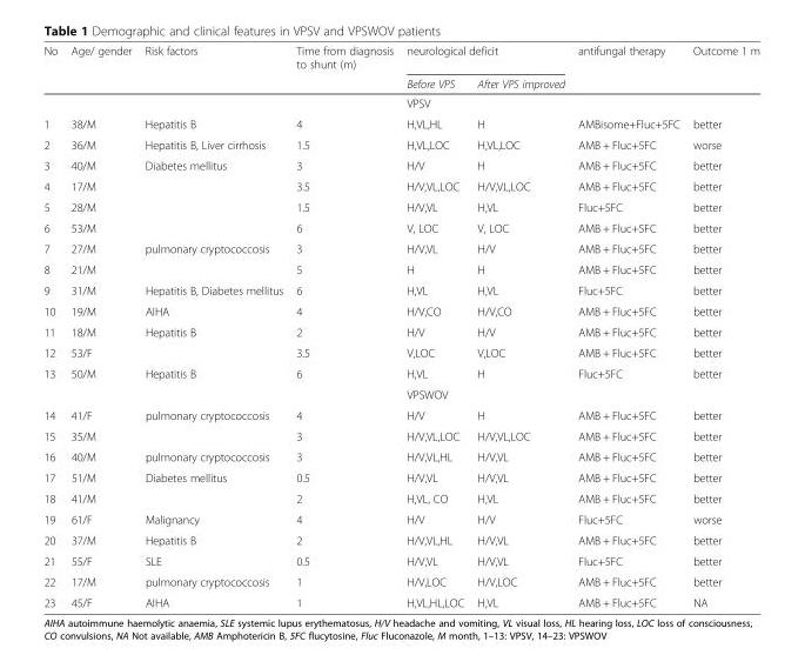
<table><thead><tr><td rowspan="2">No</td><td rowspan="2">Age/ gender</td><td rowspan="2">Risk factors</td><td rowspan="2">Time from diagnosis to shunt (m)</td><td colspan="2">neurological deficit</td><td rowspan="2">antifungal therapy</td><td rowspan="2">Outcome 1 m</td></tr><tr><td>Before VPS</td><td>After VPS improved</td></tr></thead><tbody><tr><td></td><td></td><td></td><td></td><td>VPSV</td><td></td><td></td><td></td></tr><tr><td>1</td><td>38/M</td><td>Hepatitis B</td><td>4</td><td>H,VL,HL</td><td>H</td><td>AMBisome+Fluc+5FC</td><td>better</td></tr><tr><td>2</td><td>36/M</td><td>Hepatitis B, Liver cirrhosis</td><td>1.5</td><td>H,VL,LOC</td><td>H,VL,LOC</td><td>AMB + Fluc+5FC</td><td>worse</td></tr><tr><td>3</td><td>40/M</td><td>Diabetes mellitus</td><td>3</td><td>H/V</td><td>H</td><td>AMB + Fluc+5FC</td><td>better</td></tr><tr><td>4</td><td>17/M</td><td></td><td>3.5</td><td>H/V,VL,LOC</td><td>H/V,VL,LOC</td><td>AMB + Fluc+5FC</td><td>better</td></tr><tr><td>5</td><td>28/M</td><td></td><td>1.5</td><td>H/V,VL</td><td>H,VL</td><td>Fluc+5FC</td><td>better</td></tr><tr><td>6</td><td>53/M</td><td></td><td>6</td><td>V, LOC</td><td>V, LOC</td><td>AMB + Fluc+5FC</td><td>better</td></tr><tr><td>7</td><td>27/M</td><td>pulmonary cryptococcosis</td><td>3</td><td>H/V,VL</td><td>H/V</td><td>AMB + Fluc+5FC</td><td>better</td></tr><tr><td>8</td><td>21/M</td><td></td><td>5</td><td>H</td><td>H</td><td>AMB + Fluc+5FC</td><td>better</td></tr><tr><td>9</td><td>31/M</td><td>Hepatitis B, Diabetes mellitus</td><td>6</td><td>H,VL</td><td>H,VL</td><td>Fluc+5FC</td><td>better</td></tr><tr><td>10</td><td>19/M</td><td>AIHA</td><td>4</td><td>H/V,CO</td><td>H/V,CO</td><td>AMB + Fluc+5FC</td><td>better</td></tr><tr><td>11</td><td>18/M</td><td>Hepatitis B</td><td>2</td><td>H/V</td><td>H/V</td><td>AMB + Fluc+5FC</td><td>better</td></tr><tr><td>12</td><td>53/F</td><td></td><td>3.5</td><td>V,LOC</td><td>V,LOC</td><td>AMB + Fluc+5FC</td><td>better</td></tr><tr><td rowspan="2">13</td><td>50/M</td><td>Hepatitis B</td><td>6</td><td>H,VL</td><td>H</td><td>Fluc+5FC</td><td>better</td></tr><tr><td></td><td></td><td></td><td>VPSWOV</td><td></td><td></td><td></td></tr><tr><td>14</td><td>41/F</td><td>pulmonary cryptococcosis</td><td>4</td><td>H/V</td><td>H</td><td>AMB + Fluc+5FC</td><td>better</td></tr><tr><td>15</td><td>35/M</td><td></td><td>3</td><td>H/V,VL,LOC</td><td>H/V,VL,LOC</td><td>AMB + Fluc+5FC</td><td>better</td></tr><tr><td>16</td><td>40/M</td><td>pulmonary cryptococcosis</td><td>3</td><td>H/V,VL,HL</td><td>H/V,VL</td><td>AMB + Fluc+5FC</td><td>better</td></tr><tr><td>17</td><td>51/M</td><td>Diabetes mellitus</td><td>0.5</td><td>H/V,VL</td><td>H/V,VL</td><td>AMB + Fluc+5FC</td><td>better</td></tr><tr><td>18</td><td>41/M</td><td></td><td>2</td><td>H,VL, CO</td><td>H,VL</td><td>AMB + Fluc+5FC</td><td>better</td></tr><tr><td>19</td><td>61/F</td><td>Malignancy</td><td>4</td><td>H/V</td><td>H/V</td><td>Fluc+5FC</td><td>worse</td></tr><tr><td>20</td><td>37/M</td><td>Hepatitis B</td><td>2</td><td>H/V,VL,HL</td><td>H/V,VL</td><td>AMB + Fluc+5FC</td><td>better</td></tr><tr><td>21</td><td>55/F</td><td>SLE</td><td>0.5</td><td>H/V,VL</td><td>H/V,VL</td><td>Fluc+5FC</td><td>better</td></tr><tr><td>22</td><td>17/M</td><td>pulmonary cryptococcosis</td><td>1</td><td>H/V,LOC</td><td>H/V,LOC</td><td>AMB + Fluc+5FC</td><td>better</td></tr><tr><td>23</td><td>45/F</td><td>AIHA</td><td>1</td><td>H,VL,HL,LOC</td><td>H,VL</td><td>AMB + Fluc+5FC</td><td>NA</td></tr></tbody></table>